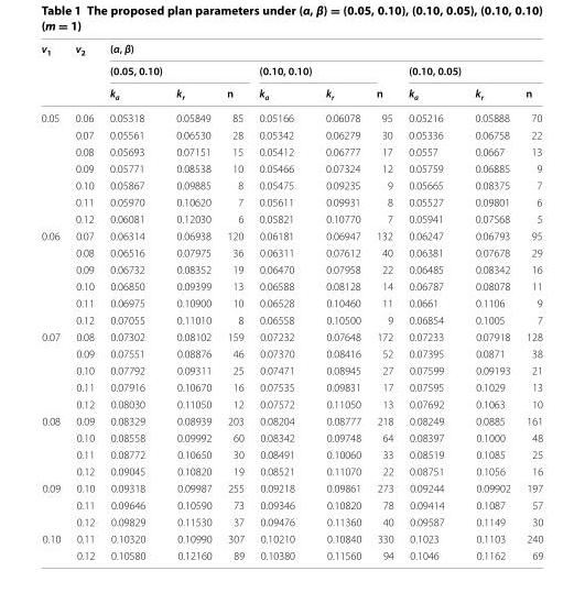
<table><thead><tr><td rowspan="3">v<sub>1</sub></td><td rowspan="3">v<sub>2</sub></td><td colspan="9">(α, β)</td></tr><tr><td colspan="3">(0.05, 0.10)</td><td colspan="3">(0.10, 0.10)</td><td colspan="3">(0.10, 0.05)</td></tr><tr><td>k<sub>a</sub></td><td>k<sub>r</sub></td><td>n</td><td>k<sub>a</sub></td><td>k<sub>r</sub></td><td>n</td><td>k<sub>a</sub></td><td>k<sub>r</sub></td><td>n</td></tr></thead><tbody><tr><td rowspan="7">0.05</td><td>0.06</td><td>0.05318</td><td>0.05849</td><td>85</td><td>0.05166</td><td>0.06078</td><td>95</td><td>0.05216</td><td>0.05888</td><td>70</td></tr><tr><td>0.07</td><td>0.05561</td><td>0.06530</td><td>28</td><td>0.05342</td><td>0.06279</td><td>30</td><td>0.05336</td><td>0.06758</td><td>22</td></tr><tr><td>0.08</td><td>0.05693</td><td>0.07151</td><td>15</td><td>0.05412</td><td>0.06777</td><td>17</td><td>0.0557</td><td>0.0667</td><td>13</td></tr><tr><td>0.09</td><td>0.05771</td><td>0.08538</td><td>10</td><td>0.05466</td><td>0.07324</td><td>12</td><td>0.05759</td><td>0.06885</td><td>9</td></tr><tr><td>0.10</td><td>0.05867</td><td>0.09885</td><td>8</td><td>0.05475</td><td>0.09235</td><td>9</td><td>0.05665</td><td>0.08375</td><td>7</td></tr><tr><td>0.11</td><td>0.05970</td><td>0.10620</td><td>7</td><td>0.05611</td><td>0.09931</td><td>8</td><td>0.05527</td><td>0.09801</td><td>6</td></tr><tr><td>0.12</td><td>0.06081</td><td>0.12030</td><td>6</td><td>0.05821</td><td>0.10770</td><td>7</td><td>0.05941</td><td>0.07568</td><td>5</td></tr><tr><td rowspan="6">0.06</td><td>0.07</td><td>0.06314</td><td>0.06938</td><td>120</td><td>0.06181</td><td>0.06947</td><td>132</td><td>0.06247</td><td>0.06793</td><td>95</td></tr><tr><td>0.08</td><td>0.06516</td><td>0.07975</td><td>36</td><td>0.06311</td><td>0.07612</td><td>40</td><td>0.06381</td><td>0.07678</td><td>29</td></tr><tr><td>0.09</td><td>0.06732</td><td>0.08352</td><td>19</td><td>0.06470</td><td>0.07958</td><td>22</td><td>0.06485</td><td>0.08342</td><td>16</td></tr><tr><td>0.10</td><td>0.06850</td><td>0.09399</td><td>13</td><td>0.06588</td><td>0.08128</td><td>14</td><td>0.06787</td><td>0.08078</td><td>11</td></tr><tr><td>0.11</td><td>0.06975</td><td>0.10900</td><td>10</td><td>0.06528</td><td>0.10460</td><td>11</td><td>0.0661</td><td>0.1106</td><td>9</td></tr><tr><td>0.12</td><td>0.07055</td><td>0.11010</td><td>8</td><td>0.06558</td><td>0.10500</td><td>9</td><td>0.06854</td><td>0.1005</td><td>7</td></tr><tr><td rowspan="5">0.07</td><td>0.08</td><td>0.07302</td><td>0.08102</td><td>159</td><td>0.07232</td><td>0.07648</td><td>172</td><td>0.07233</td><td>0.07918</td><td>128</td></tr><tr><td>0.09</td><td>0.07551</td><td>0.08876</td><td>46</td><td>0.07370</td><td>0.08416</td><td>52</td><td>0.07395</td><td>0.0871</td><td>38</td></tr><tr><td>0.10</td><td>0.07792</td><td>0.09311</td><td>25</td><td>0.07471</td><td>0.08945</td><td>27</td><td>0.07599</td><td>0.09193</td><td>21</td></tr><tr><td>0.11</td><td>0.07916</td><td>0.10670</td><td>16</td><td>0.07535</td><td>0.09831</td><td>17</td><td>0.07595</td><td>0.1029</td><td>13</td></tr><tr><td>0.12</td><td>0.08030</td><td>0.11050</td><td>12</td><td>0.07572</td><td>0.11050</td><td>13</td><td>0.07692</td><td>0.1063</td><td>10</td></tr><tr><td rowspan="4">0.08</td><td>0.09</td><td>0.08329</td><td>0.08939</td><td>203</td><td>0.08204</td><td>0.08777</td><td>218</td><td>0.08249</td><td>0.0885</td><td>161</td></tr><tr><td>0.10</td><td>0.08558</td><td>0.09992</td><td>60</td><td>0.08342</td><td>0.09748</td><td>64</td><td>0.08397</td><td>0.1000</td><td>48</td></tr><tr><td>0.11</td><td>0.08772</td><td>0.10650</td><td>30</td><td>0.08491</td><td>0.10060</td><td>33</td><td>0.08519</td><td>0.1085</td><td>25</td></tr><tr><td>0.12</td><td>0.09045</td><td>0.10820</td><td>19</td><td>0.08521</td><td>0.11070</td><td>22</td><td>0.08751</td><td>0.1056</td><td>16</td></tr><tr><td rowspan="3">0.09</td><td>0.10</td><td>0.09318</td><td>0.09987</td><td>255</td><td>0.09218</td><td>0.09861</td><td>273</td><td>0.09244</td><td>0.09902</td><td>197</td></tr><tr><td>0.11</td><td>0.09646</td><td>0.10590</td><td>73</td><td>0.09346</td><td>0.10820</td><td>78</td><td>0.09414</td><td>0.1087</td><td>57</td></tr><tr><td>0.12</td><td>0.09829</td><td>0.11530</td><td>37</td><td>0.09476</td><td>0.11360</td><td>40</td><td>0.09587</td><td>0.1149</td><td>30</td></tr><tr><td rowspan="2">0.10</td><td>0.11</td><td>0.10320</td><td>0.10990</td><td>307</td><td>0.10210</td><td>0.10840</td><td>330</td><td>0.1023</td><td>0.1103</td><td>240</td></tr><tr><td>0.12</td><td>0.10580</td><td>0.12160</td><td>89</td><td>0.10380</td><td>0.11560</td><td>94</td><td>0.1046</td><td>0.1162</td><td>69</td></tr></tbody></table>